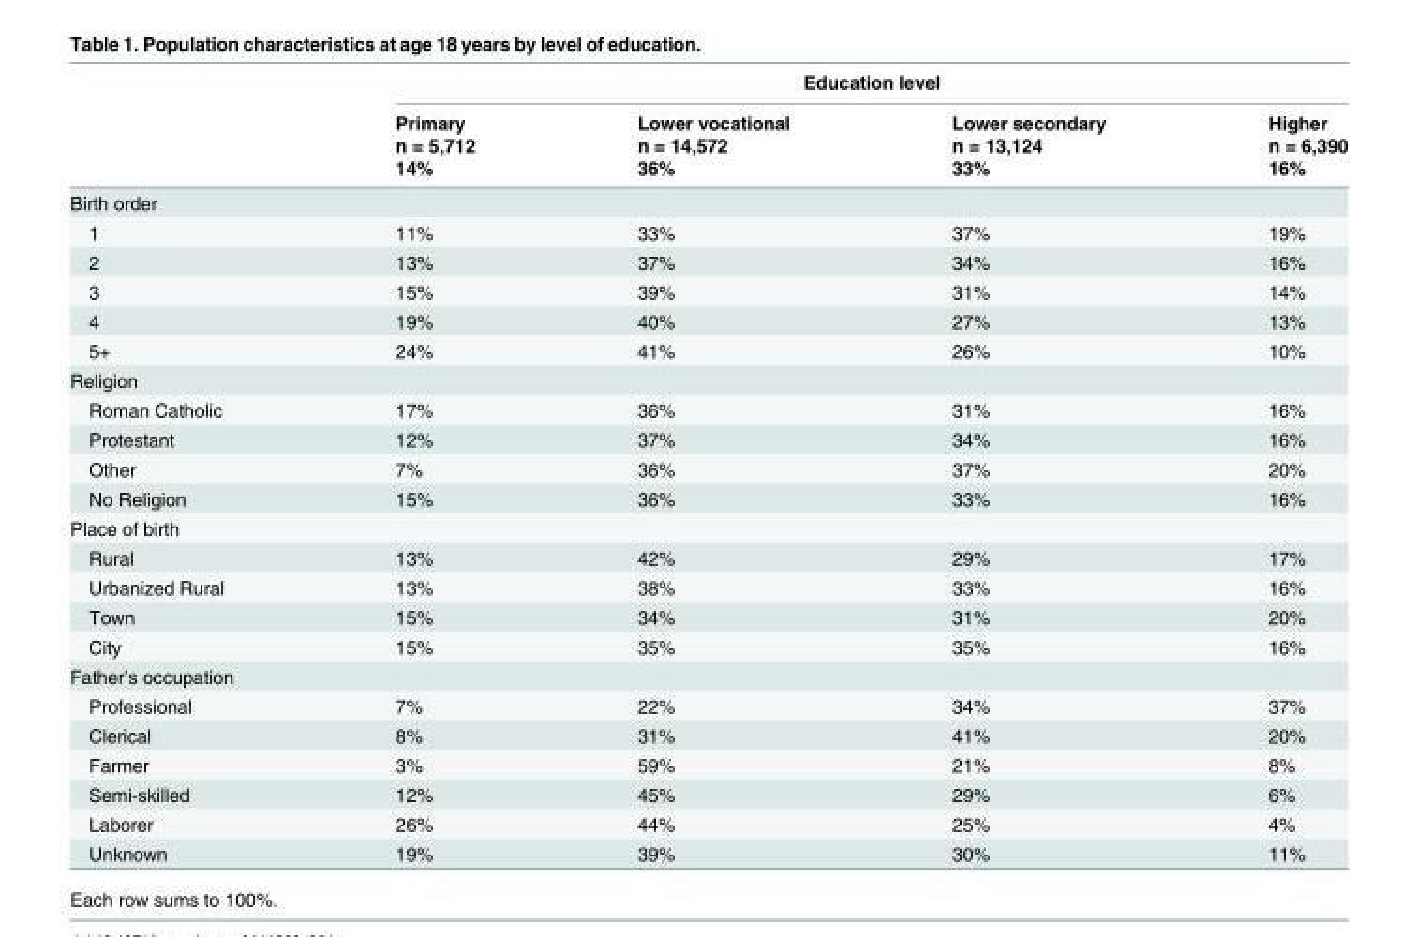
<table><thead><tr><td rowspan="4"></td><td colspan="4">Education level</td></tr><tr><td rowspan="3">Primary n = 5,712 14%</td><td rowspan="3">Lower vocational n = 14,572 36%</td><td rowspan="3">Lower secondary n = 13,124 33%</td><td rowspan="3">Higher n = 6,390 16%</td></tr><tr></tr><tr></tr></thead><tbody><tr><td colspan="5">Birth order</td></tr><tr><td>1</td><td>11%</td><td>33%</td><td>37%</td><td>19%</td></tr><tr><td>2</td><td>13%</td><td>37%</td><td>34%</td><td>16%</td></tr><tr><td>3</td><td>15%</td><td>39%</td><td>31%</td><td>14%</td></tr><tr><td>4</td><td>19%</td><td>40%</td><td>27%</td><td>13%</td></tr><tr><td>5+</td><td>24%</td><td>41%</td><td>26%</td><td>10%</td></tr><tr><td colspan="5">Religion</td></tr><tr><td>Roman Catholic</td><td>17%</td><td>36%</td><td>31%</td><td>16%</td></tr><tr><td>Protestant</td><td>12%</td><td>37%</td><td>34%</td><td>16%</td></tr><tr><td>Other</td><td>7%</td><td>36%</td><td>37%</td><td>20%</td></tr><tr><td>No Religion</td><td>15%</td><td>36%</td><td>33%</td><td>16%</td></tr><tr><td colspan="5">Place of birth</td></tr><tr><td>Rural</td><td>13%</td><td>42%</td><td>29%</td><td>17%</td></tr><tr><td>Urbanized Rural</td><td>13%</td><td>38%</td><td>33%</td><td>16%</td></tr><tr><td>Town</td><td>15%</td><td>34%</td><td>31%</td><td>20%</td></tr><tr><td>City</td><td>15%</td><td>35%</td><td>35%</td><td>16%</td></tr><tr><td colspan="5">Father’s occupation</td></tr><tr><td>Professional</td><td>7%</td><td>22%</td><td>34%</td><td>37%</td></tr><tr><td>Clerical</td><td>8%</td><td>31%</td><td>41%</td><td>20%</td></tr><tr><td>Farmer</td><td>3%</td><td>59%</td><td>21%</td><td>8%</td></tr><tr><td>Semi-skilled</td><td>12%</td><td>45%</td><td>29%</td><td>6%</td></tr><tr><td>Laborer</td><td>26%</td><td>44%</td><td>25%</td><td>4%</td></tr><tr><td>Unknown</td><td>19%</td><td>39%</td><td>30%</td><td>11%</td></tr></tbody></table>